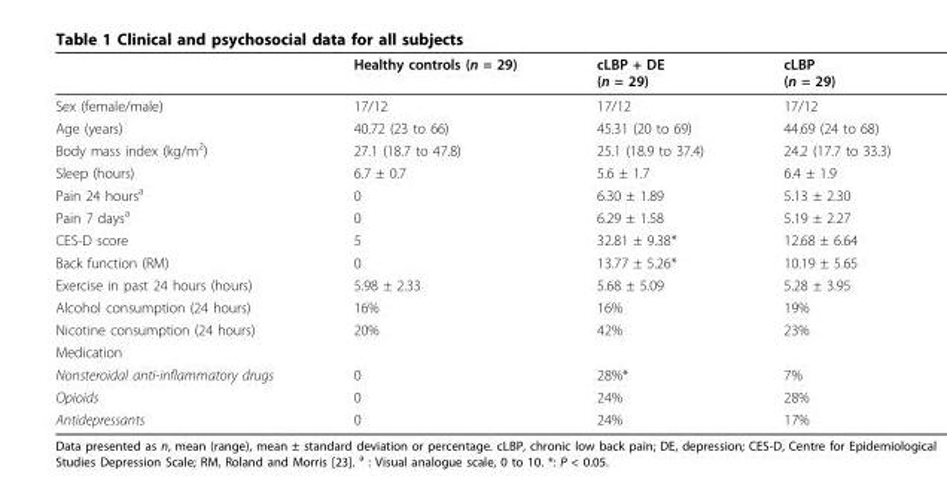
<table><thead><tr><td></td><td>Healthy controls (n = 29)</td><td>cLBP + DE (n = 29)</td><td>cLBP (n = 29)</td></tr></thead><tbody><tr><td>Sex (female/male)</td><td>17/12</td><td>17/12</td><td>17/12</td></tr><tr><td>Age (years)</td><td>40.72 (23 to 66)</td><td>45.31 (20 to 69)</td><td>44.69 (24 to 68)</td></tr><tr><td>Body mass index (kg/m<sup>2</sup>)</td><td>27.1 (18.7 to 47.8)</td><td>25.1 (18.9 to 37.4)</td><td>24.2 (17.7 to 33.3)</td></tr><tr><td>Sleep (hours)</td><td>6.7 ± 0.7</td><td>5.6 ± 1.7</td><td>6.4 ± 1.9</td></tr><tr><td>Pain 24 hours<sup>a</sup></td><td>0</td><td>6.30 ± 1.89</td><td>5.13 ± 2.30</td></tr><tr><td>Pain 7 days<sup>a</sup></td><td>0</td><td>6.29 ± 1.58</td><td>5.19 ± 2.27</td></tr><tr><td>CES-D score</td><td>5</td><td>32.81 ± 9.38*</td><td>12.68 ± 6.64</td></tr><tr><td>Back function (RM)</td><td>0</td><td>13.77 ± 5.26*</td><td>10.19 ± 5.65</td></tr><tr><td>Exercise in past 24 hours (hours)</td><td>5.98 ± 2.33</td><td>5.68 ± 5.09</td><td>5.28 ± 3.95</td></tr><tr><td>Alcohol consumption (24 hours)</td><td>16%</td><td>16%</td><td>19%</td></tr><tr><td>Nicotine consumption (24 hours)</td><td>20%</td><td>42%</td><td>23%</td></tr><tr><td colspan="4">Medication</td></tr><tr><td>Nonsteroidal anti-inflammatory drugs</td><td>0</td><td>28%*</td><td>7%</td></tr><tr><td>Opioids</td><td>0</td><td>24%</td><td>28%</td></tr><tr><td>Antidepressants</td><td>0</td><td>24%</td><td>17%</td></tr></tbody></table>